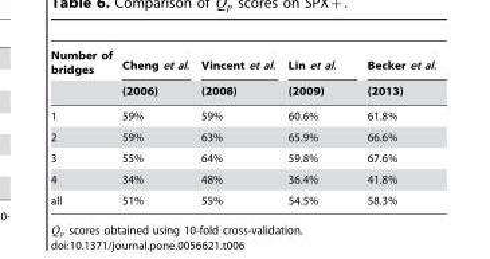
<table><thead><tr><td rowspan="2">Number of bridges</td><td rowspan="2">Cheng et al. (2006)</td><td rowspan="2">Vincent et al. (2008)</td><td rowspan="2">Lin et al. (2009)</td><td rowspan="2">Becker et al. (2013)</td></tr><tr></tr></thead><tbody><tr><td>1</td><td>59%</td><td>59%</td><td>60.6%</td><td>61.8%</td></tr><tr><td>2</td><td>59%</td><td>63%</td><td>65.9%</td><td>66.6%</td></tr><tr><td>3</td><td>55%</td><td>64%</td><td>59.8%</td><td>67.6%</td></tr><tr><td>4</td><td>34%</td><td>48%</td><td>36.4%</td><td>41.8%</td></tr><tr><td>all</td><td>51%</td><td>55%</td><td>54.5%</td><td>58.3%</td></tr></tbody></table>